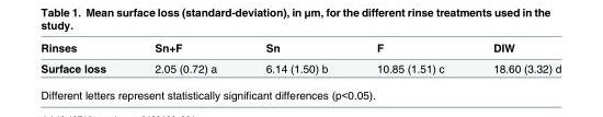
<table><thead><tr><td>Rinses</td><td>Sn+F</td><td>Sn</td><td>F</td><td>DIW</td></tr></thead><tbody><tr><td>Surface loss</td><td>2.05 (0.72) a</td><td>6.14 (1.50) b</td><td>10.85 (1.51) c</td><td>18.60 (3.32) d</td></tr></tbody></table>